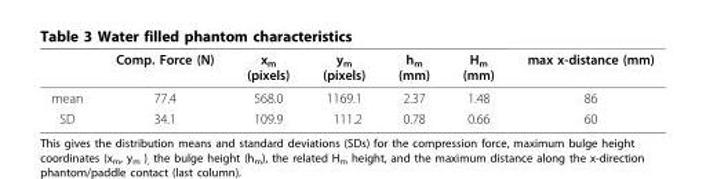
<table><thead><tr><td></td><td>Comp. Force (N)</td><td>x<sub>m</sub> (pixels)</td><td>y<sub>m</sub> (pixels)</td><td>h<sub>m</sub> (mm)</td><td>H<sub>m</sub> (mm)</td><td>max x-distance (mm)</td></tr></thead><tbody><tr><td>mean</td><td>77.4</td><td>568.0</td><td>1169.1</td><td>2.37</td><td>1.48</td><td>86</td></tr><tr><td>SD</td><td>34.1</td><td>109.9</td><td>111.2</td><td>0.78</td><td>0.66</td><td>60</td></tr></tbody></table>